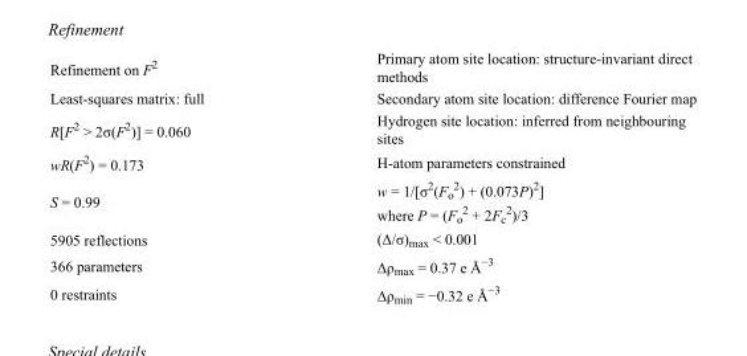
<table><tbody><tr><td>Refinement on F<sup>2</sup></td><td>Primary atom site location: structure-invariant direct methods</td></tr><tr><td>Least-squares matrix: full</td><td>Secondary atom site location: difference Fourier map</td></tr><tr><td>R[F<sup>2</sup> &gt; 2σ(F<sup>2</sup>)] = 0.060</td><td>Hydrogen site location: inferred from neighbouring sites</td></tr><tr><td>wR(F<sup>2</sup>) = 0.173</td><td>H-atom parameters constrained</td></tr><tr><td>S = 0.99</td><td>w = 1/[σ<sup>2</sup>(F<sub>o</sub> <sup>2</sup>) + (0.073P)<sup>2</sup>] where P = (F<sub>o</sub> <sup>2</sup> + 2F<sub>c</sub> <sup>2</sup>)/3</td></tr><tr><td>5905 reflections</td><td>(Δ/σ)<sub>max</sub> &lt; 0.001</td></tr><tr><td>366 parameters</td><td>Δρ<sub>max</sub> = 0.37 e Å<sup>−3</sup></td></tr><tr><td>0 restraints</td><td>Δρ<sub>min</sub> = −0.32 e Å<sup>−3</sup></td></tr></tbody></table>